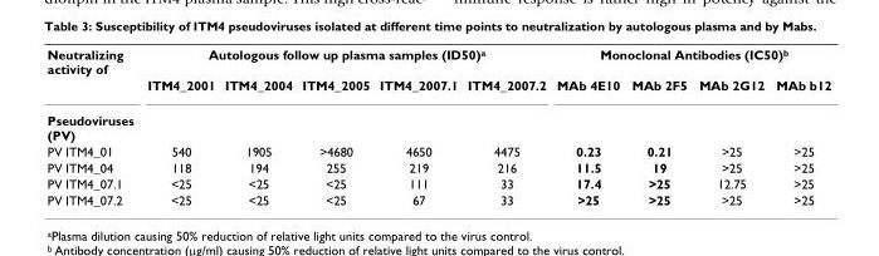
<table><tbody><tr><td rowspan="2">Neutralizing activity of</td><td colspan="5">Autologous follow up plasma samples (ID50)<sup>a</sup></td><td colspan="4">Monoclonal Antibodies (IC50)<sup>b</sup></td></tr><tr><td>ITM4_2001</td><td>ITM4_2004</td><td>ITM4_2005</td><td>ITM4_2007.1</td><td>ITM4_2007.2</td><td>MAb 4E10</td><td>MAb 2F5</td><td>MAb 2G12</td><td>MAb b12</td></tr><tr><td colspan="10">Pseudoviruses (PV)</td></tr><tr><td>PV ITM4_01</td><td>540</td><td>1905</td><td>&gt;4680</td><td>4650</td><td>4475</td><td>0.23</td><td>0.21</td><td>&gt;25</td><td>&gt;25</td></tr><tr><td>PV ITM4_04</td><td>118</td><td>194</td><td>255</td><td>219</td><td>216</td><td>11.5</td><td>19</td><td>&gt;25</td><td>&gt;25</td></tr><tr><td>PV ITM4_07.1</td><td>&lt;25</td><td>&lt;25</td><td>&lt;25</td><td>111</td><td>33</td><td>17.4</td><td>&gt;25</td><td>12.75</td><td>&gt;25</td></tr><tr><td>PV ITM4_07.2</td><td>&lt;25</td><td>&lt;25</td><td>&lt;25</td><td>67</td><td>33</td><td>&gt;25</td><td>&gt;25</td><td>&gt;25</td><td>&gt;25</td></tr></tbody></table>